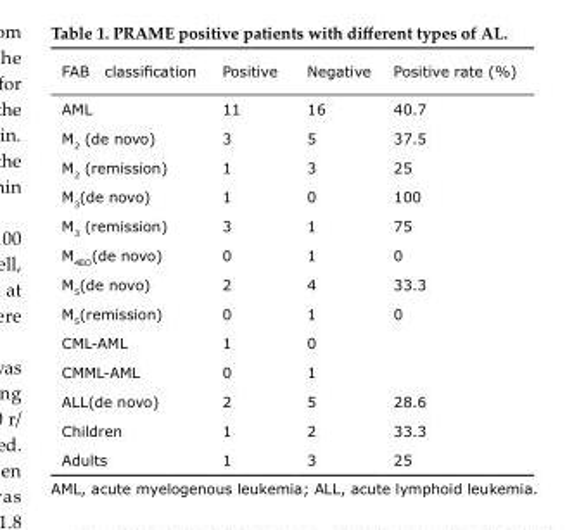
<table><thead><tr><td>FAB classification</td><td>Positive</td><td>Negative</td><td>Positive rate (%)</td></tr></thead><tbody><tr><td>AML</td><td>11</td><td>16</td><td>40.7</td></tr><tr><td>M<sub>2</sub> (de novo)</td><td>3</td><td>5</td><td>37.5</td></tr><tr><td>M<sub>2</sub> (remission)</td><td>1</td><td>3</td><td>25</td></tr><tr><td>M<sub>3</sub>(de novo)</td><td>1</td><td>0</td><td>100</td></tr><tr><td>M<sub>3</sub> (remission)</td><td>3</td><td>1</td><td>75</td></tr><tr><td>M<sub>4EO</sub>(de novo)</td><td>0</td><td>1</td><td>0</td></tr><tr><td>M<sub>5</sub>(de novo)</td><td>2</td><td>4</td><td>33.3</td></tr><tr><td>M<sub>5</sub>(remission)</td><td>0</td><td>1</td><td>0</td></tr><tr><td>CML-AML</td><td>1</td><td>0</td><td></td></tr><tr><td>CMML-AML</td><td>0</td><td>1</td><td></td></tr><tr><td>ALL(de novo)</td><td>2</td><td>5</td><td>28.6</td></tr><tr><td>Children</td><td>1</td><td>2</td><td>33.3</td></tr><tr><td>Adults</td><td>1</td><td>3</td><td>25</td></tr></tbody></table>